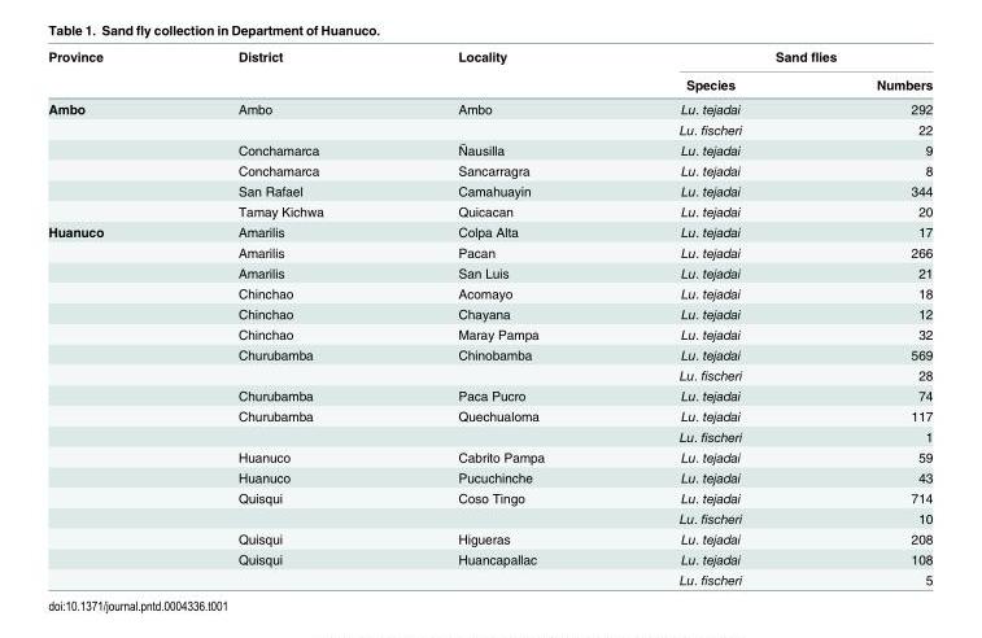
<table><thead><tr><td rowspan="2">Province</td><td rowspan="2">District</td><td rowspan="2">Locality</td><td colspan="2">Sand flies</td></tr><tr><td>Species</td><td>Numbers</td></tr></thead><tbody><tr><td rowspan="6">Ambo</td><td>Ambo</td><td>Ambo</td><td>Lu. tejadai</td><td>292</td></tr><tr><td></td><td></td><td>Lu. fischeri</td><td>22</td></tr><tr><td>Conchamarca</td><td>Ñausilla</td><td>Lu. tejadai</td><td>9</td></tr><tr><td>Conchamarca</td><td>Sancarragra</td><td>Lu. tejadai</td><td>8</td></tr><tr><td>San Rafael</td><td>Camahuayin</td><td>Lu. tejadai</td><td>344</td></tr><tr><td>Tamay Kichwa</td><td>Quicacan</td><td>Lu. tejadai</td><td>20</td></tr><tr><td rowspan="18">Huanuco</td><td>Amarilis</td><td>Colpa Alta</td><td>Lu. tejadai</td><td>17</td></tr><tr><td>Amarilis</td><td>Pacan</td><td>Lu. tejadai</td><td>266</td></tr><tr><td>Amarilis</td><td>San Luis</td><td>Lu. tejadai</td><td>21</td></tr><tr><td>Chinchao</td><td>Acomayo</td><td>Lu. tejadai</td><td>18</td></tr><tr><td>Chinchao</td><td>Chayana</td><td>Lu. tejadai</td><td>12</td></tr><tr><td>Chinchao</td><td>Maray Pampa</td><td>Lu. tejadai</td><td>32</td></tr><tr><td>Churubamba</td><td>Chinobamba</td><td>Lu. tejadai</td><td>569</td></tr><tr><td></td><td></td><td>Lu. fischeri</td><td>28</td></tr><tr><td>Churubamba</td><td>Paca Pucro</td><td>Lu. tejadai</td><td>74</td></tr><tr><td>Churubamba</td><td>Quechualoma</td><td>Lu. tejadai</td><td>117</td></tr><tr><td></td><td></td><td>Lu. fischeri</td><td>1</td></tr><tr><td>Huanuco</td><td>Cabrito Pampa</td><td>Lu. tejadai</td><td>59</td></tr><tr><td>Huanuco</td><td>Pucuchinche</td><td>Lu. tejadai</td><td>43</td></tr><tr><td>Quisqui</td><td>Coso Tingo</td><td>Lu. tejadai</td><td>714</td></tr><tr><td></td><td></td><td>Lu. fischeri</td><td>10</td></tr><tr><td>Quisqui</td><td>Higueras</td><td>Lu. tejadai</td><td>208</td></tr><tr><td>Quisqui</td><td>Huancapallac</td><td>Lu. tejadai</td><td>108</td></tr><tr><td></td><td></td><td>Lu. fischeri</td><td>5</td></tr></tbody></table>